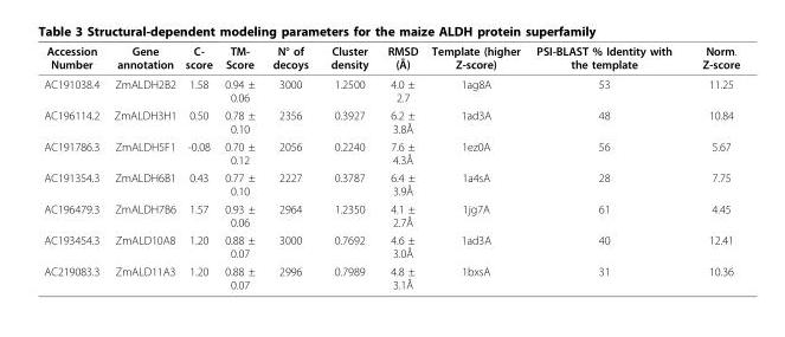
<table><thead><tr><td>Accession Number</td><td>Gene annotation</td><td>C- score</td><td>TM- Score</td><td>N° of decoys</td><td>Cluster density</td><td>RMSD (Å)</td><td>Template (higher Z-score)</td><td>PSI-BLAST % Identity with the template</td><td>Norm. Z-score</td></tr></thead><tbody><tr><td>AC191038.4</td><td>ZmALDH2B2</td><td>1.58</td><td>0.94 ± 0.06</td><td>3000</td><td>1.2500</td><td>4.0 ± 2.7</td><td>1ag8A</td><td>53</td><td>11.25</td></tr><tr><td>AC196114.2</td><td>ZmALDH3H1</td><td>0.50</td><td>0.78 ± 0.10</td><td>2356</td><td>0.3927</td><td>6.2 ± 3.8Å</td><td>1ad3A</td><td>48</td><td>10.84</td></tr><tr><td>AC191786.3</td><td>ZmALDH5F1</td><td>-0.08</td><td>0.70 ± 0.12</td><td>2056</td><td>0.2240</td><td>7.6 ± 4.3Å</td><td>1ez0A</td><td>56</td><td>5.67</td></tr><tr><td>AC191354.3</td><td>ZmALDH6B1</td><td>0.43</td><td>0.77 ± 0.10</td><td>2227</td><td>0.3787</td><td>6.4 ± 3.9Å</td><td>1a4sA</td><td>28</td><td>7.75</td></tr><tr><td>AC196479.3</td><td>ZmALDH7B6</td><td>1.57</td><td>0.93 ± 0.06</td><td>2964</td><td>1.2350</td><td>4.1 ± 2.7Å</td><td>1jg7A</td><td>61</td><td>4.45</td></tr><tr><td>AC193454.3</td><td>ZmALD10A8</td><td>1.20</td><td>0.88 ± 0.07</td><td>3000</td><td>0.7692</td><td>4.6 ± 3.0Å</td><td>1ad3A</td><td>40</td><td>12.41</td></tr><tr><td>AC219083.3</td><td>ZmALD11A3</td><td>1.20</td><td>0.88 ± 0.07</td><td>2996</td><td>0.7989</td><td>4.8 ± 3.1Å</td><td>1bxsA</td><td>31</td><td>10.36</td></tr></tbody></table>